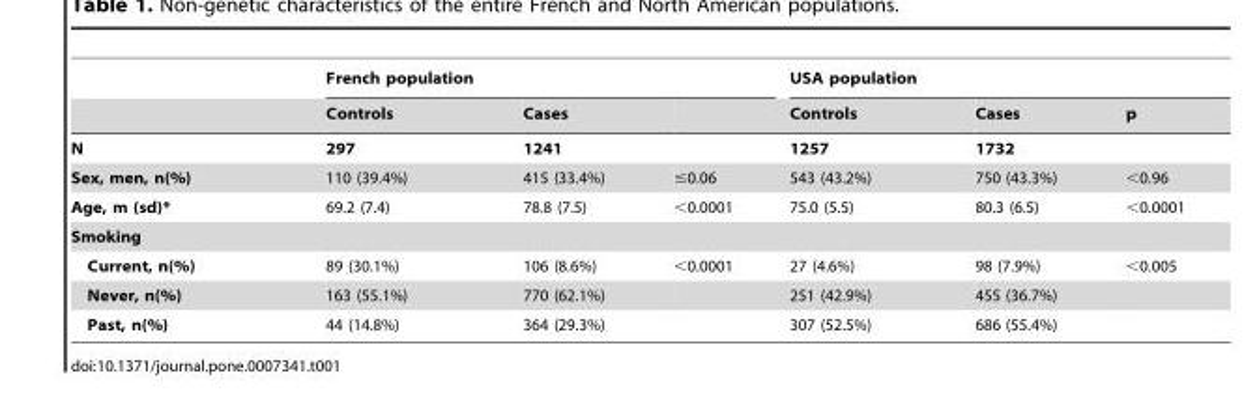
<table><thead><tr><td rowspan="2"></td><td colspan="3">French population</td><td colspan="3">USA population</td></tr><tr><td>Controls</td><td>Cases</td><td></td><td>Controls</td><td>Cases</td><td>p</td></tr></thead><tbody><tr><td>N</td><td>297</td><td>1241</td><td></td><td>1257</td><td>1732</td><td></td></tr><tr><td>Sex, men, n(%)</td><td>110 (39.4%)</td><td>415 (33.4%)</td><td>≤0.06</td><td>543 (43.2%)</td><td>750 (43.3%)</td><td>&lt;0.96</td></tr><tr><td>Age, m (sd)*</td><td>69.2 (7.4)</td><td>78.8 (7.5)</td><td>&lt;0.0001</td><td>75.0 (5.5)</td><td>80.3 (6.5)</td><td>&lt;0.0001</td></tr><tr><td colspan="7">Smoking</td></tr><tr><td>Current, n(%)</td><td>89 (30.1%)</td><td>106 (8.6%)</td><td>&lt;0.0001</td><td>27 (4.6%)</td><td>98 (7.9%)</td><td>&lt;0.005</td></tr><tr><td>Never, n(%)</td><td>163 (55.1%)</td><td>770 (62.1%)</td><td></td><td>251 (42.9%)</td><td>455 (36.7%)</td><td></td></tr><tr><td>Past, n(%)</td><td>44 (14.8%)</td><td>364 (29.3%)</td><td></td><td>307 (52.5%)</td><td>686 (55.4%)</td><td></td></tr></tbody></table>